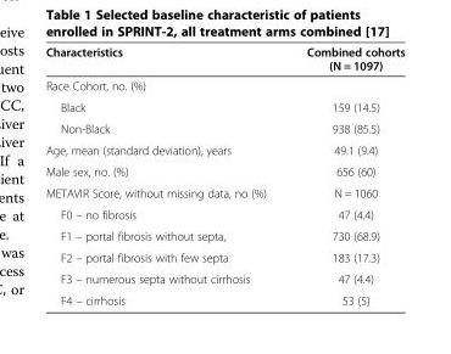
<table><thead><tr><td>Characteristics</td><td>Combined cohorts (N = 1097)</td></tr></thead><tbody><tr><td colspan="2">Race Cohort, no. (%)</td></tr><tr><td>Black</td><td>159 (14.5)</td></tr><tr><td>Non-Black</td><td>938 (85.5)</td></tr><tr><td>Age, mean (standard deviation), years</td><td>49.1 (9.4)</td></tr><tr><td>Male sex, no. (%)</td><td>656 (60)</td></tr><tr><td>METAVIR Score, without missing data, no (%)</td><td>N = 1060</td></tr><tr><td>F0 – no fibrosis</td><td>47 (4.4)</td></tr><tr><td>F1 – portal fibrosis without septa,</td><td>730 (68.9)</td></tr><tr><td>F2 – portal fibrosis with few septa</td><td>183 (17.3)</td></tr><tr><td>F3 – numerous septa without cirrhosis</td><td>47 (4.4)</td></tr><tr><td>F4 – cirrhosis</td><td>53 (5)</td></tr></tbody></table>